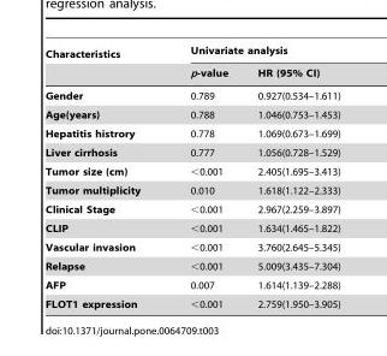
<table><thead><tr><td rowspan="2">Characteristics</td><td colspan="2">Univariate analysis</td></tr><tr><td>p-value</td><td>HR (95% CI)</td></tr></thead><tbody><tr><td>Gender</td><td>0.789</td><td>0.927(0.534–1.611)</td></tr><tr><td>Age(years)</td><td>0.788</td><td>1.046(0.753–1.453)</td></tr><tr><td>Hepatitis histrory</td><td>0.778</td><td>1.069(0.673–1.699)</td></tr><tr><td>Liver cirrhosis</td><td>0.777</td><td>1.056(0.728–1.529)</td></tr><tr><td>Tumor size (cm)</td><td>&lt;0.001</td><td>2.405(1.695–3.413)</td></tr><tr><td>Tumor multiplicity</td><td>0.010</td><td>1.618(1.122–2.333)</td></tr><tr><td>Clinical Stage</td><td>&lt;0.001</td><td>2.967(2.259–3.897)</td></tr><tr><td>CLIP</td><td>&lt;0.001</td><td>1.634(1.465–1.822)</td></tr><tr><td>Vascular invasion</td><td>&lt;0.001</td><td>3.760(2.645–5.345)</td></tr><tr><td>Relapse</td><td>&lt;0.001</td><td>5.009(3.435–7.304)</td></tr><tr><td>AFP</td><td>0.007</td><td>1.614(1.139–2.288)</td></tr><tr><td>FLOT1 expression</td><td>&lt;0.001</td><td>2.759(1.950–3.905)</td></tr></tbody></table>